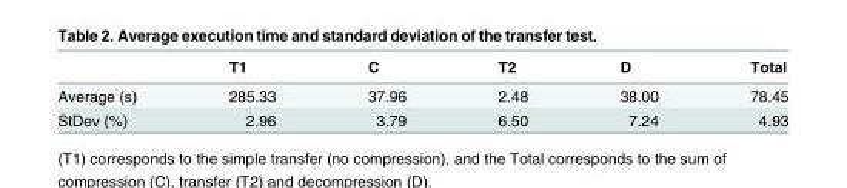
<table><thead><tr><td></td><td>T1</td><td>C</td><td>T2</td><td>D</td><td>Total</td></tr></thead><tbody><tr><td>Average (s)</td><td>285.33</td><td>37.96</td><td>2.48</td><td>38.00</td><td>78.45</td></tr><tr><td>StDev (%)</td><td>2.96</td><td>3.79</td><td>6.50</td><td>7.24</td><td>4.93</td></tr></tbody></table>